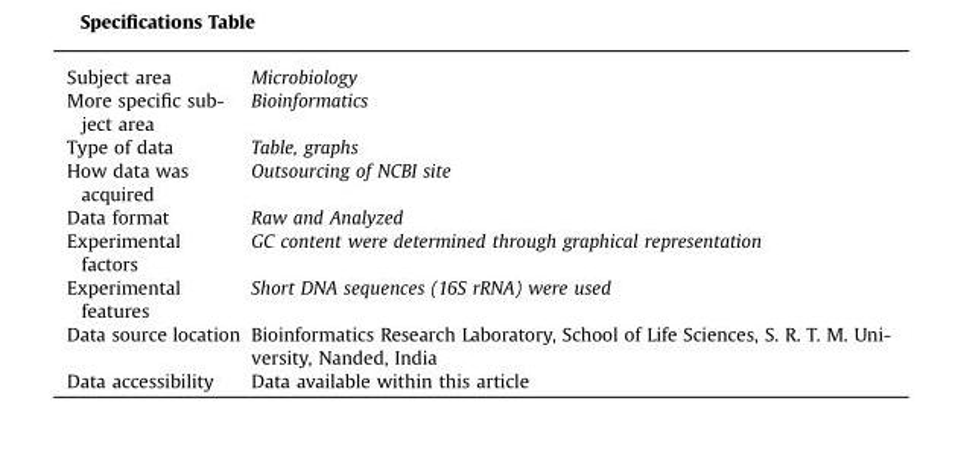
<table><tbody><tr><td>Subject area</td><td>Microbiology</td></tr><tr><td>More specific sub- ject area</td><td>Bioinformatics</td></tr><tr><td>Type of data</td><td>Table, graphs</td></tr><tr><td>How data was acquired</td><td>Outsourcing of NCBI site</td></tr><tr><td>Data format</td><td>Raw and Analyzed</td></tr><tr><td>Experimental factors</td><td>GC content were determined through graphical representation</td></tr><tr><td>Experimental features</td><td>Short DNA sequences (16S rRNA) were used</td></tr><tr><td>Data source location</td><td>Bioinformatics Research Laboratory, School of Life Sciences, S. R. T. M. Uni- versity, Nanded, India</td></tr><tr><td>Data accessibility</td><td>Data available within this article</td></tr></tbody></table>